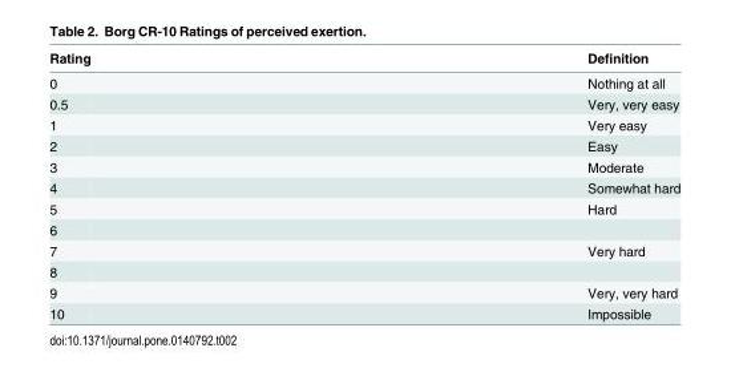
<table><thead><tr><td>Rating</td><td>Definition</td></tr></thead><tbody><tr><td>0</td><td>Nothing at all</td></tr><tr><td>0.5</td><td>Very, very easy</td></tr><tr><td>1</td><td>Very easy</td></tr><tr><td>2</td><td>Easy</td></tr><tr><td>3</td><td>Moderate</td></tr><tr><td>4</td><td>Somewhat hard</td></tr><tr><td>5</td><td>Hard</td></tr><tr><td colspan="2">6</td></tr><tr><td>7</td><td>Very hard</td></tr><tr><td colspan="2">8</td></tr><tr><td>9</td><td>Very, very hard</td></tr><tr><td>10</td><td>Impossible</td></tr></tbody></table>